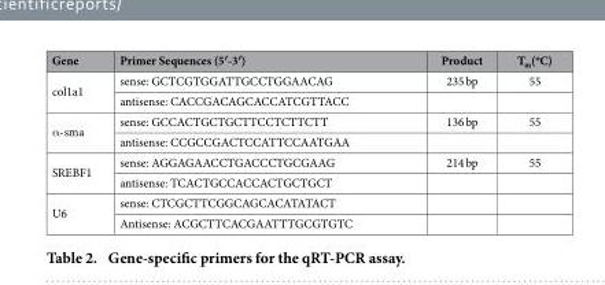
<table><thead><tr><td>Gene</td><td>Primer Sequences (5′-3′)</td><td>Product</td><td>T<sub>m</sub>(<sup>o</sup>C)</td></tr></thead><tbody><tr><td rowspan="2">col1a1</td><td>sense: GCTCGTGGATTGCCTGGAACAG</td><td>235 bp</td><td>55</td></tr><tr><td>antisense: CACCGACAGCACCATCGTTACC</td><td></td><td></td></tr><tr><td rowspan="2">α -sma</td><td>sense: GCCACTGCTGCTTCCTCTTCTT</td><td>136 bp</td><td>55</td></tr><tr><td>antisense: CCGCCGACTCCATTCCAATGAA</td><td></td><td></td></tr><tr><td rowspan="2">SREBF1</td><td>sense: AGGAGAACCTGACCCTGCGAAG</td><td>214 bp</td><td>55</td></tr><tr><td>antisense: TCACTGCCACCACTGCTGCT</td><td></td><td></td></tr><tr><td rowspan="2">U6</td><td>sense: CTCGCTTCGGCAGCACATATACT</td><td></td><td></td></tr><tr><td>Antisense: ACGCTTCACGAATTTGCGTGTC</td><td></td><td></td></tr></tbody></table>